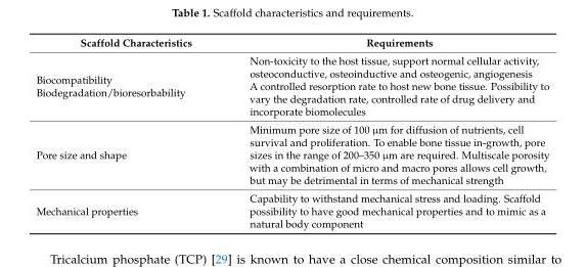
<table><thead><tr><td>Scaffold Characteristics</td><td>Requirements</td></tr></thead><tbody><tr><td>Biocompatibility Biodegradation/bioresorbability</td><td>Non-toxicity to the host tissue, support normal cellular activity, osteoconductive, osteoinductive and osteogenic, angiogenesis A controlled resorption rate to host new bone tissue. Possibility to vary the degradation rate, controlled rate of drug delivery and incorporate biomolecules</td></tr><tr><td>Pore size and shape</td><td>Minimum pore size of 100 µm for diffusion of nutrients, cell survival and proliferation. To enable bone tissue in-growth, pore sizes in the range of 200–350 µm are required. Multiscale porosity with a combination of micro and macro pores allows cell growth, but may be detrimental in terms of mechanical strength</td></tr><tr><td>Mechanical properties</td><td>Capability to withstand mechanical stress and loading. Scaffold possibility to have good mechanical properties and to mimic as a natural body component</td></tr></tbody></table>